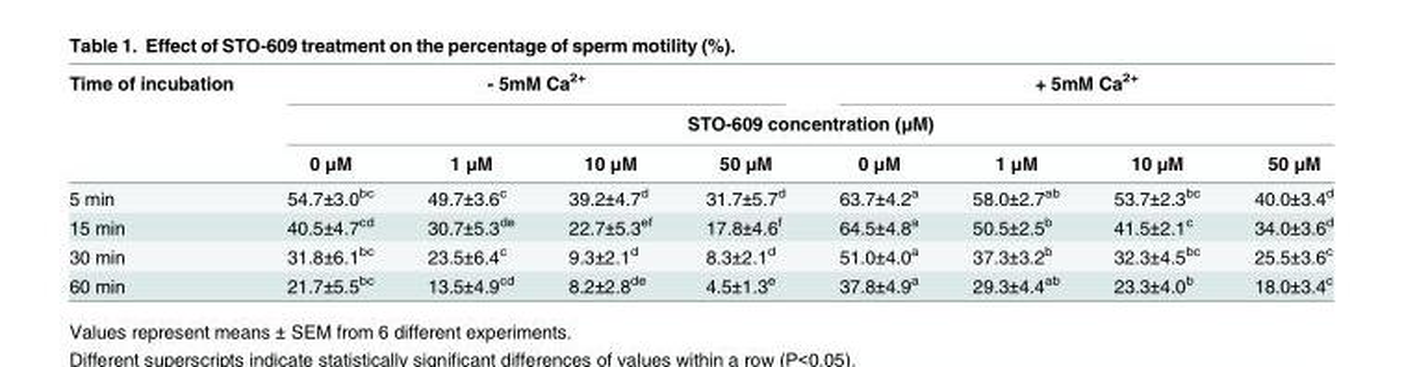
<table><thead><tr><td rowspan="3">Time of incubation</td><td colspan="4">- 5mM Ca<sup>2+</sup></td><td colspan="4">+ 5mM Ca<sup>2+</sup></td></tr><tr><td colspan="8">STO-609 concentration (μM)</td></tr><tr><td>0 μM</td><td>1 μM</td><td>10 μM</td><td>50 μM</td><td>0 μM</td><td>1 μM</td><td>10 μM</td><td>50 μM</td></tr></thead><tbody><tr><td>5 min</td><td>54.7±3.0<sup>bc</sup></td><td>49.7±3.6<sup>c</sup></td><td>39.2±4.7<sup>d</sup></td><td>31.7±5.7<sup>d</sup></td><td>63.7±4.2<sup>a</sup></td><td>58.0±2.7<sup>ab</sup></td><td>53.7±2.3<sup>bc</sup></td><td>40.0±3.4<sup>d</sup></td></tr><tr><td>15 min</td><td>40.5±4.7<sup>cd</sup></td><td>30.7±5.3<sup>de</sup></td><td>22.7±5.3<sup>ef</sup></td><td>17.8±4.6<sup>f</sup></td><td>64.5±4.8<sup>a</sup></td><td>50.5±2.5<sup>b</sup></td><td>41.5±2.1<sup>c</sup></td><td>34.0±3.6<sup>d</sup></td></tr><tr><td>30 min</td><td>31.8±6.1<sup>bc</sup></td><td>23.5±6.4<sup>c</sup></td><td>9.3±2.1<sup>d</sup></td><td>8.3±2.1<sup>d</sup></td><td>51.0±4.0<sup>a</sup></td><td>37.3±3.2<sup>b</sup></td><td>32.3±4.5<sup>bc</sup></td><td>25.5±3.6<sup>c</sup></td></tr><tr><td>60 min</td><td>21.7±5.5<sup>bc</sup></td><td>13.5±4.9<sup>cd</sup></td><td>8.2±2.8<sup>de</sup></td><td>4.5±1.3<sup>e</sup></td><td>37.8±4.9<sup>a</sup></td><td>29.3±4.4<sup>ab</sup></td><td>23.3±4.0<sup>b</sup></td><td>18.0±3.4<sup>c</sup></td></tr></tbody></table>